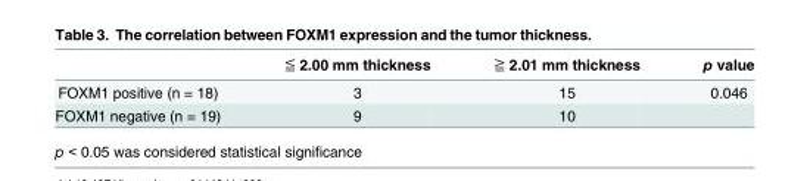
<table><thead><tr><td></td><td>≦ 2.00 mm thickness</td><td>≧ 2.01 mm thickness</td><td>p value</td></tr></thead><tbody><tr><td>FOXM1 positive (n = 18)</td><td>3</td><td>15</td><td>0.046</td></tr><tr><td>FOXM1 negative (n = 19)</td><td>9</td><td>10</td><td></td></tr></tbody></table>